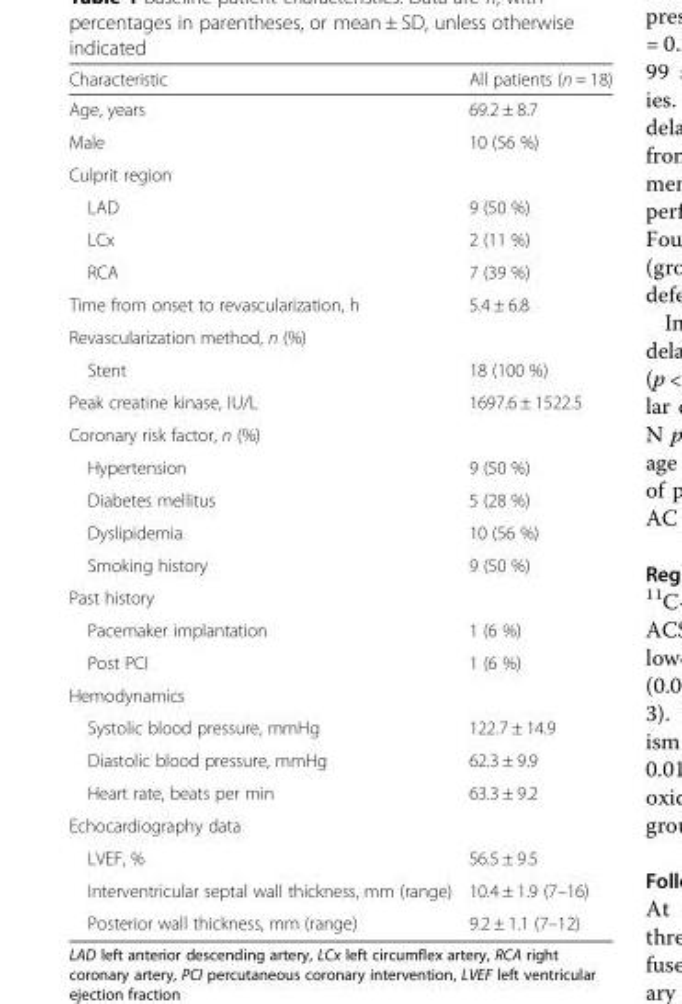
<table><thead><tr><td>Characteristic</td><td>All patients (n = 18)</td></tr></thead><tbody><tr><td>Age, years</td><td>69.2 ± 8.7</td></tr><tr><td>Male</td><td>10 (56 %)</td></tr><tr><td colspan="2">Culprit region</td></tr><tr><td>LAD</td><td>9 (50 %)</td></tr><tr><td>LCx</td><td>2 (11 %)</td></tr><tr><td>RCA</td><td>7 (39 %)</td></tr><tr><td>Time from onset to revascularization, h</td><td>5.4 ± 6.8</td></tr><tr><td colspan="2">Revascularization method, n (%)</td></tr><tr><td>Stent</td><td>18 (100 %)</td></tr><tr><td>Peak creatine kinase, IU/L</td><td>1697.6 ± 1522.5</td></tr><tr><td colspan="2">Coronary risk factor, n (%)</td></tr><tr><td>Hypertension</td><td>9 (50 %)</td></tr><tr><td>Diabetes mellitus</td><td>5 (28 %)</td></tr><tr><td>Dyslipidemia</td><td>10 (56 %)</td></tr><tr><td>Smoking history</td><td>9 (50 %)</td></tr><tr><td colspan="2">Past history</td></tr><tr><td>Pacemaker implantation</td><td>1 (6 %)</td></tr><tr><td>Post PCI</td><td>1 (6 %)</td></tr><tr><td colspan="2">Hemodynamics</td></tr><tr><td>Systolic blood pressure, mmHg</td><td>122.7 ± 14.9</td></tr><tr><td>Diastolic blood pressure, mmHg</td><td>62.3 ± 9.9</td></tr><tr><td>Heart rate, beats per min</td><td>63.3 ± 9.2</td></tr><tr><td colspan="2">Echocardiography data</td></tr><tr><td>LVEF, %</td><td>56.5 ± 9.5</td></tr><tr><td>Interventricular septal wall thickness, mm (range)</td><td>10.4 ± 1.9 (7–16)</td></tr><tr><td>Posterior wall thickness, mm (range)</td><td>9.2 ± 1.1 (7–12)</td></tr></tbody></table>